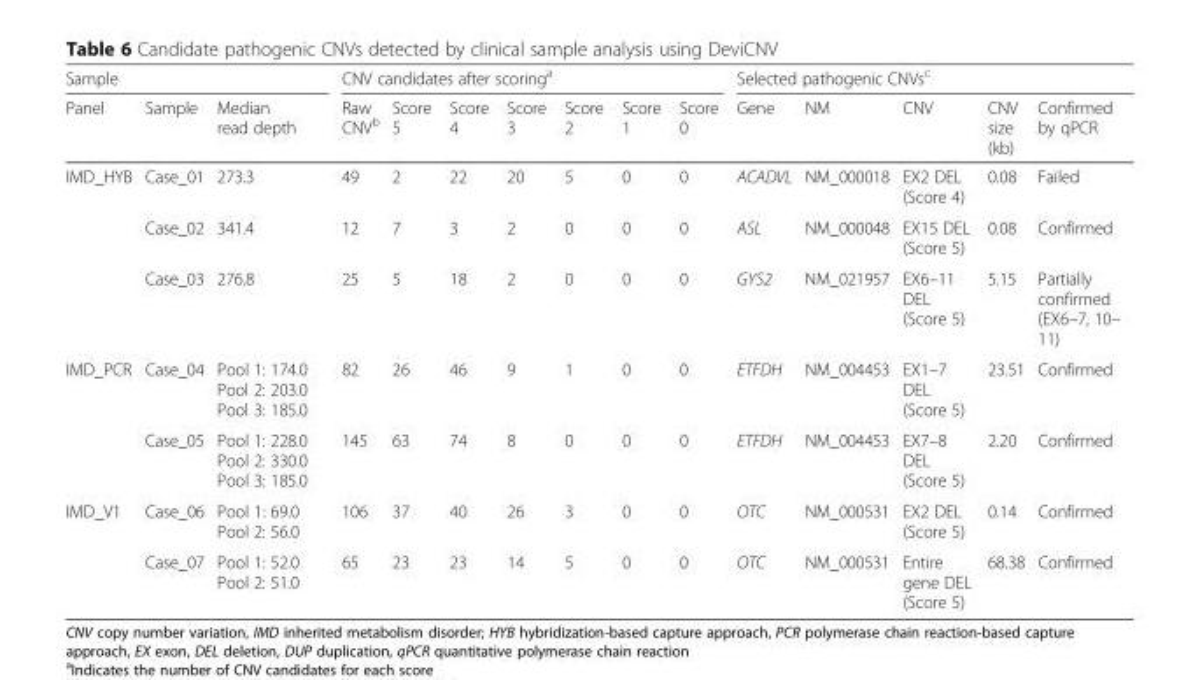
<table><thead><tr><td colspan="3">Sample</td><td colspan="7">CNV candidates after scoring<sup>a</sup></td><td colspan="5">Selected pathogenic CNVs<sup>c</sup></td></tr><tr><td>Panel</td><td>Sample</td><td>Median read depth</td><td>Raw CNV<sup>b</sup></td><td>Score 5</td><td>Score 4</td><td>Score 3</td><td>Score 2</td><td>Score 1</td><td>Score 0</td><td>Gene</td><td>NM</td><td>CNV</td><td>CNV size (kb)</td><td>Confirmed by qPCR</td></tr></thead><tbody><tr><td rowspan="3">IMD_HYB</td><td>Case_01</td><td>273.3</td><td>49</td><td>2</td><td>22</td><td>20</td><td>5</td><td>0</td><td>0</td><td>ACADVL</td><td>NM_000018</td><td>EX2 DEL (Score 4)</td><td>0.08</td><td>Failed</td></tr><tr><td>Case_02</td><td>341.4</td><td>12</td><td>7</td><td>3</td><td>2</td><td>0</td><td>0</td><td>0</td><td>ASL</td><td>NM_000048</td><td>EX15 DEL (Score 5)</td><td>0.08</td><td>Confirmed</td></tr><tr><td>Case_03</td><td>276.8</td><td>25</td><td>5</td><td>18</td><td>2</td><td>0</td><td>0</td><td>0</td><td>GYS2</td><td>NM_021957</td><td>EX6–11 DEL (Score 5)</td><td>5.15</td><td>Partially confirmed (EX6–7, 10– 11)</td></tr><tr><td rowspan="2">IMD_PCR</td><td>Case_04</td><td>Pool 1: 174.0 Pool 2: 203.0 Pool 3: 185.0</td><td>82</td><td>26</td><td>46</td><td>9</td><td>1</td><td>0</td><td>0</td><td>ETFDH</td><td>NM_004453</td><td>EX1–7 DEL (Score 5)</td><td>23.51</td><td>Confirmed</td></tr><tr><td>Case_05</td><td>Pool 1: 228.0 Pool 2: 330.0 Pool 3: 185.0</td><td>145</td><td>63</td><td>74</td><td>8</td><td>0</td><td>0</td><td>0</td><td>ETFDH</td><td>NM_004453</td><td>EX7–8 DEL (Score 5)</td><td>2.20</td><td>Confirmed</td></tr><tr><td rowspan="2">IMD_V1</td><td>Case_06</td><td>Pool 1: 69.0 Pool 2: 56.0</td><td>106</td><td>37</td><td>40</td><td>26</td><td>3</td><td>0</td><td>0</td><td>OTC</td><td>NM_000531</td><td>EX2 DEL (Score 5)</td><td>0.14</td><td>Confirmed</td></tr><tr><td>Case_07</td><td>Pool 1: 52.0 Pool 2: 51.0</td><td>65</td><td>23</td><td>23</td><td>14</td><td>5</td><td>0</td><td>0</td><td>OTC</td><td>NM_000531</td><td>Entire gene DEL (Score 5)</td><td>68.38</td><td>Confirmed</td></tr></tbody></table>